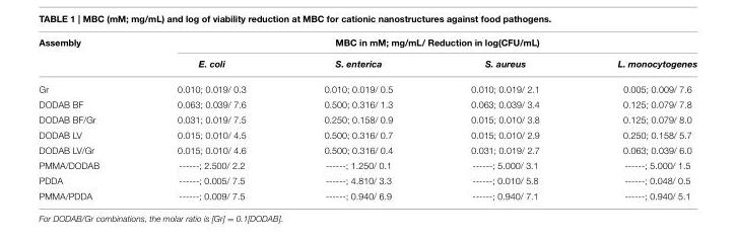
<table><thead><tr><td rowspan="2">Assembly</td><td colspan="4">MBC in mM; mg/mL/ Reduction in log(CFU/mL)</td></tr><tr><td>E. coli</td><td>S. enterica</td><td>S. aureus</td><td>L. monocytogenes</td></tr></thead><tbody><tr><td>Gr</td><td>0.010; 0.019/ 0.3</td><td>0.010; 0.019/ 0.5</td><td>0.010; 0.019/ 2.1</td><td>0.005; 0.009/ 7.6</td></tr><tr><td>DODAB BF</td><td>0.063; 0.039/ 7.6</td><td>0.500; 0.316/ 1.3</td><td>0.063; 0.039/ 3.4</td><td>0.125; 0.079/ 7.8</td></tr><tr><td>DODAB BF/Gr</td><td>0.031; 0.019/ 7.5</td><td>0.250; 0.158/ 0.9</td><td>0.015; 0.010/ 3.8</td><td>0.125; 0.079/ 8.0</td></tr><tr><td>DODAB LV</td><td>0.015; 0.010/ 4.5</td><td>0.500; 0.316/ 0.7</td><td>0.015; 0.010/ 2.9</td><td>0.250; 0.158/ 5.7</td></tr><tr><td>DODAB LV/Gr</td><td>0.015; 0.010/ 4.6</td><td>0.500; 0.316/ 0.4</td><td>0.031; 0.019/ 2.7</td><td>0.063; 0.039/ 6.0</td></tr><tr><td>PMMA/DODAB</td><td>------; 2.500/ 2.2</td><td>------; 1.250/ 0.1</td><td>------; 5.000/ 3.1</td><td>------; 5.000/ 1.5</td></tr><tr><td>PDDA</td><td>------; 0.005/ 7.5</td><td>------; 4.810/ 3.3</td><td>------; 0.010/ 5.8</td><td>------; 0.048/ 0.5</td></tr><tr><td>PMMA/PDDA</td><td>------; 0.009/ 7.5</td><td>------; 0.940/ 6.9</td><td>------; 0.940/ 7.1</td><td>------; 0.940/ 5.1</td></tr></tbody></table>